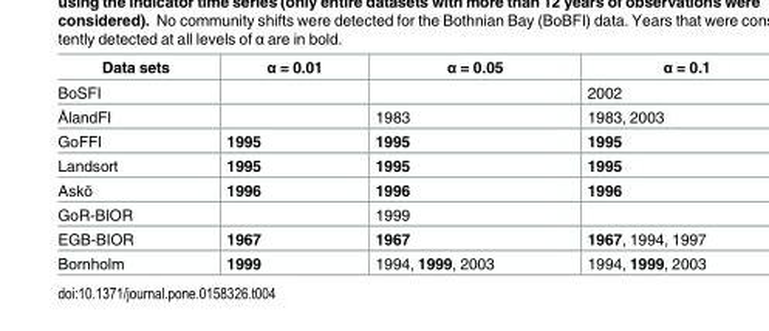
<table><thead><tr><td>Data sets</td><td>α = 0.01</td><td>α = 0.05</td><td>α = 0.1</td></tr></thead><tbody><tr><td>BoSFI</td><td></td><td></td><td>2002</td></tr><tr><td>ÅlandFI</td><td></td><td>1983</td><td>1983, 2003</td></tr><tr><td>GoFFI</td><td>1995</td><td>1995</td><td>1995</td></tr><tr><td>Landsort</td><td>1995</td><td>1995</td><td>1995</td></tr><tr><td>Askö</td><td>1996</td><td>1996</td><td>1996</td></tr><tr><td>GoR-BIOR</td><td></td><td>1999</td><td></td></tr><tr><td>EGB-BIOR</td><td>1967</td><td>1967</td><td>1967, 1994, 1997</td></tr><tr><td>Bornholm</td><td>1999</td><td>1994, 1999, 2003</td><td>1994, 1999, 2003</td></tr></tbody></table>